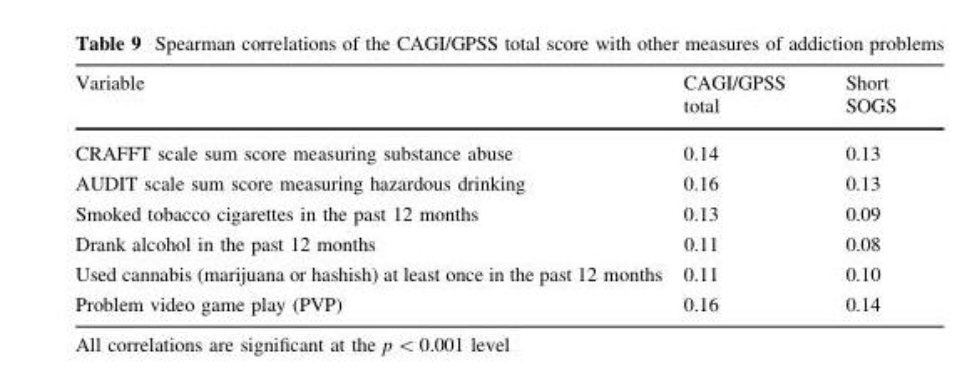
<table><thead><tr><td>Variable</td><td>CAGI/GPSS total</td><td>Short SOGS</td></tr></thead><tbody><tr><td>CRAFFT scale sum score measuring substance abuse</td><td>0.14</td><td>0.13</td></tr><tr><td>AUDIT scale sum score measuring hazardous drinking</td><td>0.16</td><td>0.13</td></tr><tr><td>Smoked tobacco cigarettes in the past 12 months</td><td>0.13</td><td>0.09</td></tr><tr><td>Drank alcohol in the past 12 months</td><td>0.11</td><td>0.08</td></tr><tr><td>Used cannabis (marijuana or hashish) at least once in the past 12 months</td><td>0.11</td><td>0.10</td></tr><tr><td>Problem video game play (PVP)</td><td>0.16</td><td>0.14</td></tr></tbody></table>